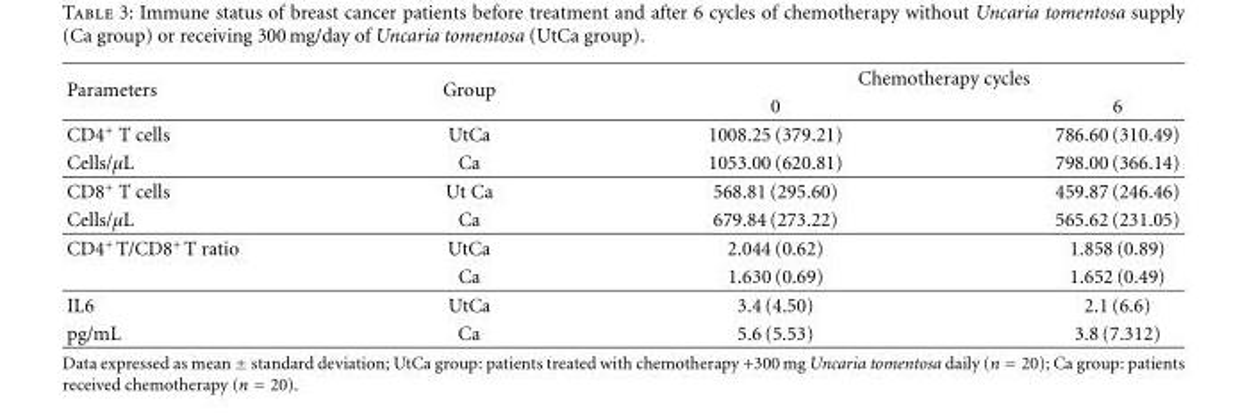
<table><thead><tr><td rowspan="2">Parameters</td><td rowspan="2">Group</td><td colspan="2">Chemotherapy cycles</td></tr><tr><td>0</td><td>6</td></tr></thead><tbody><tr><td>CD4<sup>+</sup> T cells</td><td>UtCa</td><td>1008.25 (379.21)</td><td>786.60 (310.49)</td></tr><tr><td>Cells/μL</td><td>Ca</td><td>1053.00 (620.81)</td><td>798.00 (366.14)</td></tr><tr><td>CD8<sup>+</sup> T cells</td><td>Ut Ca</td><td>568.81 (295.60)</td><td>459.87 (246.46)</td></tr><tr><td>Cells/μL</td><td>Ca</td><td>679.84 (273.22)</td><td>565.62 (231.05)</td></tr><tr><td rowspan="2">CD4<sup>+</sup> T/CD8<sup>+</sup> T ratio</td><td>UtCa</td><td>2.044 (0.62)</td><td>1.858 (0.89)</td></tr><tr><td>Ca</td><td>1.630 (0.69)</td><td>1.652 (0.49)</td></tr><tr><td>IL6</td><td>UtCa</td><td>3.4 (4.50)</td><td>2.1 (6.6)</td></tr><tr><td>pg/mL</td><td>Ca</td><td>5.6 (5.53)</td><td>3.8 (7.312)</td></tr></tbody></table>